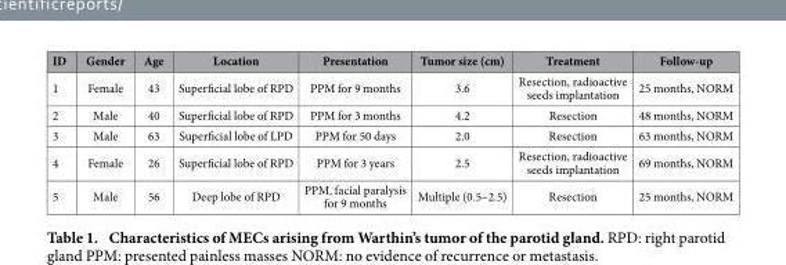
<table><thead><tr><td>ID</td><td>Gender</td><td>Age</td><td>Location</td><td>Presentation</td><td>Tumor size (cm)</td><td>Treatment</td><td>Follow-up</td></tr></thead><tbody><tr><td>1</td><td>Female</td><td>43</td><td>Superficial lobe of RPD</td><td>PPM for 9 months</td><td>3.6</td><td>Resection, radioactive seeds implantation</td><td>25 months, NORM</td></tr><tr><td>2</td><td>Male</td><td>40</td><td>Superficial lobe of RPD</td><td>PPM for 3 months</td><td>4.2</td><td>Resection</td><td>48 months, NORM</td></tr><tr><td>3</td><td>Male</td><td>63</td><td>Superficial lobe of LPD</td><td>PPM for 50 days</td><td>2.0</td><td>Resection</td><td>63 months, NORM</td></tr><tr><td>4</td><td>Female</td><td>26</td><td>Superficial lobe of RPD</td><td>PPM for 3 years</td><td>2.5</td><td>Resection, radioactive seeds implantation</td><td>69 months, NORM</td></tr><tr><td>5</td><td>Male</td><td>56</td><td>Deep lobe of RPD</td><td>PPM, facial paralysis for 9 months</td><td>Multiple (0.5–2.5)</td><td>Resection</td><td>25 months, NORM</td></tr></tbody></table>